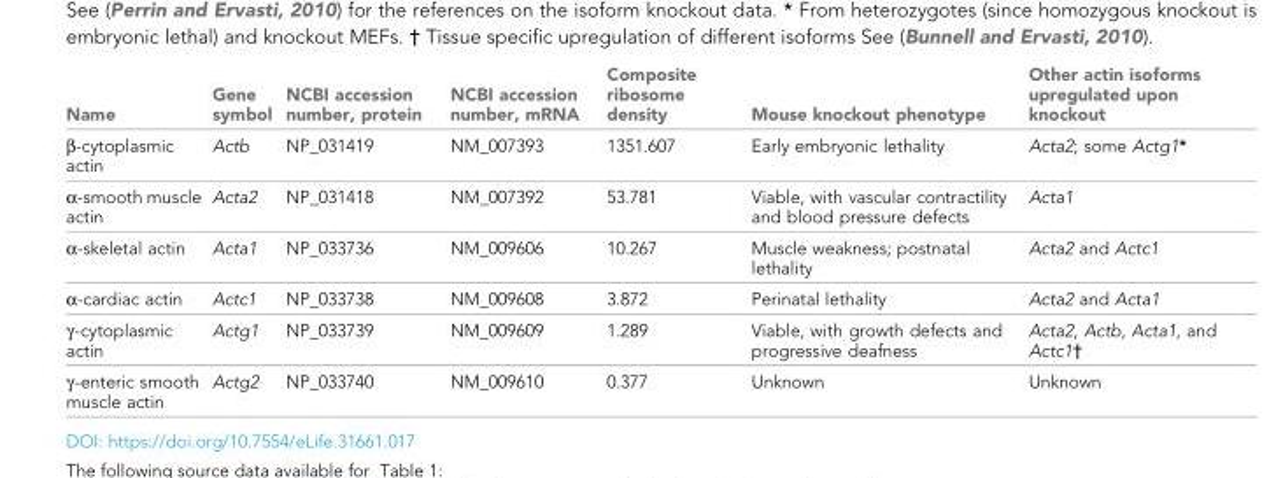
<table><thead><tr><td>Name</td><td>Gene symbol</td><td>NCBI accession number, protein</td><td>NCBI accession number, mRNA</td><td>Composite ribosome density</td><td>Mouse knockout phenotype</td><td>Other actin isoforms upregulated upon knockout</td></tr></thead><tbody><tr><td>β-cytoplasmic actin</td><td>Actb</td><td>NP_031419</td><td>NM_007393</td><td>1351.607</td><td>Early embryonic lethality</td><td>Acta2; some Actg1*</td></tr><tr><td>α-smooth muscle actin</td><td>Acta2</td><td>NP_031418</td><td>NM_007392</td><td>53.781</td><td>Viable, with vascular contractility and blood pressure defects</td><td>Acta1</td></tr><tr><td>α-skeletal actin</td><td>Acta1</td><td>NP_033736</td><td>NM_009606</td><td>10.267</td><td>Muscle weakness; postnatal lethality</td><td>Acta2 and Actc1</td></tr><tr><td>α-cardiac actin</td><td>Actc1</td><td>NP_033738</td><td>NM_009608</td><td>3.872</td><td>Perinatal lethality</td><td>Acta2 and Acta1</td></tr><tr><td>γ-cytoplasmic actin</td><td>Actg1</td><td>NP_033739</td><td>NM_009609</td><td>1.289</td><td>Viable, with growth defects and progressive deafness</td><td>Acta2, Actb, Acta1, and Actc1†</td></tr><tr><td>γ-enteric smooth muscle actin</td><td>Actg2</td><td>NP_033740</td><td>NM_009610</td><td>0.377</td><td>Unknown</td><td>Unknown</td></tr></tbody></table>